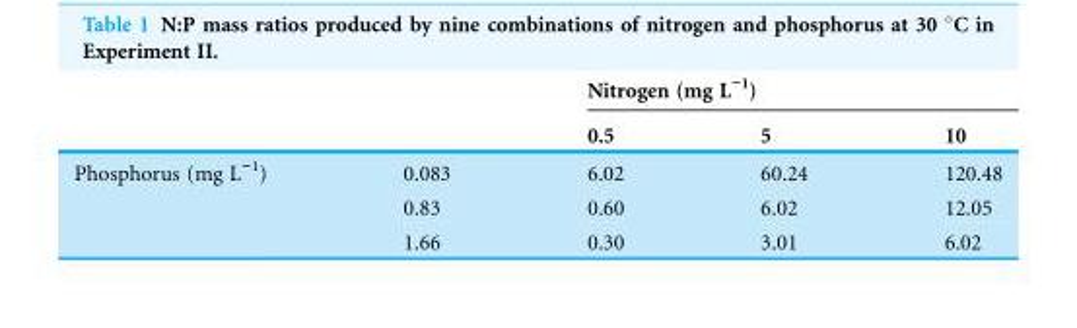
<table><thead><tr><td rowspan="2"></td><td rowspan="2"></td><td colspan="3">Nitrogen (mg L<sup>−1</sup>)</td></tr><tr><td>0.5</td><td>5</td><td>10</td></tr></thead><tbody><tr><td rowspan="3">Phosphorus (mg L<sup>−1</sup>)</td><td>0.083</td><td>6.02</td><td>60.24</td><td>120.48</td></tr><tr><td>0.83</td><td>0.60</td><td>6.02</td><td>12.05</td></tr><tr><td>1.66</td><td>0.30</td><td>3.01</td><td>6.02</td></tr></tbody></table>